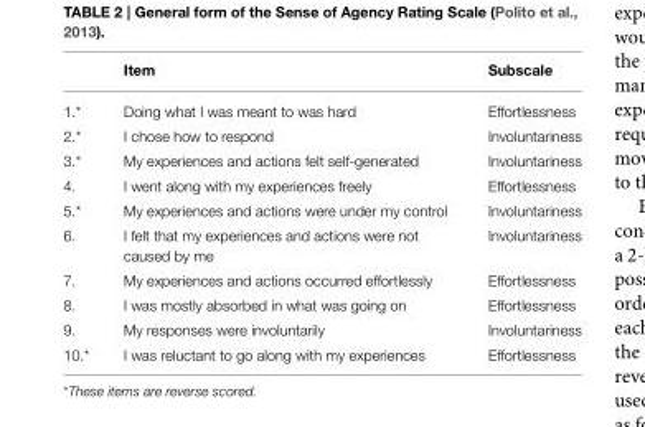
<table><thead><tr><td></td><td>Item</td><td>Subscale</td></tr></thead><tbody><tr><td>1.*</td><td>Doing what I was meant to was hard</td><td>Effortlessness</td></tr><tr><td>2.*</td><td>I chose how to respond</td><td>Involuntariness</td></tr><tr><td>3.*</td><td>My experiences and actions felt self-generated</td><td>Involuntariness</td></tr><tr><td>4.</td><td>I went along with my experiences freely</td><td>Effortlessness</td></tr><tr><td>5.*</td><td>My experiences and actions were under my control</td><td>Involuntariness</td></tr><tr><td>6.</td><td>I felt that my experiences and actions were not caused by me</td><td>Involuntariness</td></tr><tr><td>7.</td><td>My experiences and actions occurred effortlessly</td><td>Effortlessness</td></tr><tr><td>8.</td><td>I was mostly absorbed in what was going on</td><td>Effortlessness</td></tr><tr><td>9.</td><td>My responses were involuntarily</td><td>Involuntariness</td></tr><tr><td>10.*</td><td>I was reluctant to go along with my experiences</td><td>Effortlessness</td></tr></tbody></table>